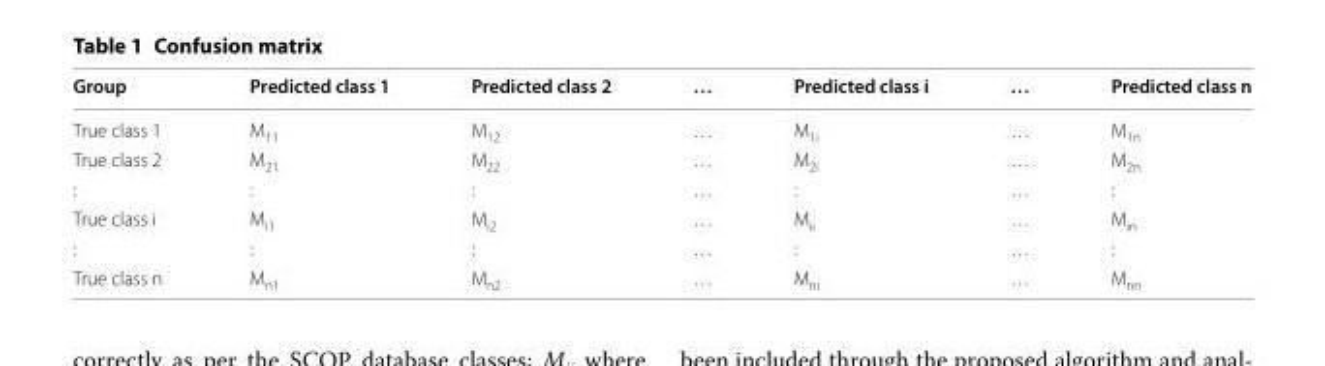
<table><thead><tr><td>Group</td><td>Predicted class 1</td><td>Predicted class 2</td><td>…</td><td>Predicted class i</td><td>…</td><td>Predicted class n</td></tr></thead><tbody><tr><td>True class 1</td><td>M<sub>11</sub></td><td>M<sub>12</sub></td><td>…</td><td>M<sub>1i</sub></td><td>…</td><td>M<sub>1n</sub></td></tr><tr><td>True class 2</td><td>M<sub>21</sub></td><td>M<sub>22</sub></td><td>…</td><td>M<sub>2i</sub></td><td>…</td><td>M<sub>2n</sub></td></tr><tr><td>:</td><td>:</td><td>:</td><td>…</td><td>:</td><td>…</td><td>:</td></tr><tr><td>True class i</td><td>M<sub>i1</sub></td><td>M<sub>i2</sub></td><td>…</td><td>M<sub>ii</sub></td><td>…</td><td>M<sub>in</sub></td></tr><tr><td>:</td><td>:</td><td>:</td><td>…</td><td>:</td><td>…</td><td>:</td></tr><tr><td>True class n</td><td>M<sub>n1</sub></td><td>M<sub>n2</sub></td><td>…</td><td>M<sub>ni</sub></td><td>…</td><td>M<sub>nn</sub></td></tr></tbody></table>